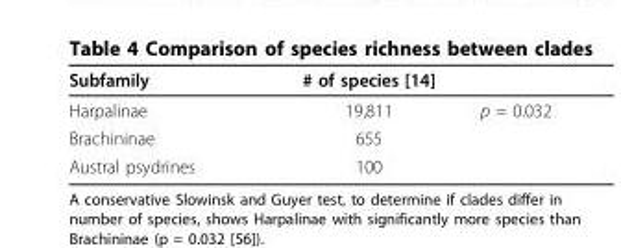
<table><thead><tr><td>Subfamily</td><td># of species [14]</td><td></td></tr></thead><tbody><tr><td>Harpalinae</td><td>19,811</td><td>p = 0.032</td></tr><tr><td>Brachininae</td><td>655</td><td></td></tr><tr><td>Austral psydrines</td><td>100</td><td></td></tr></tbody></table>